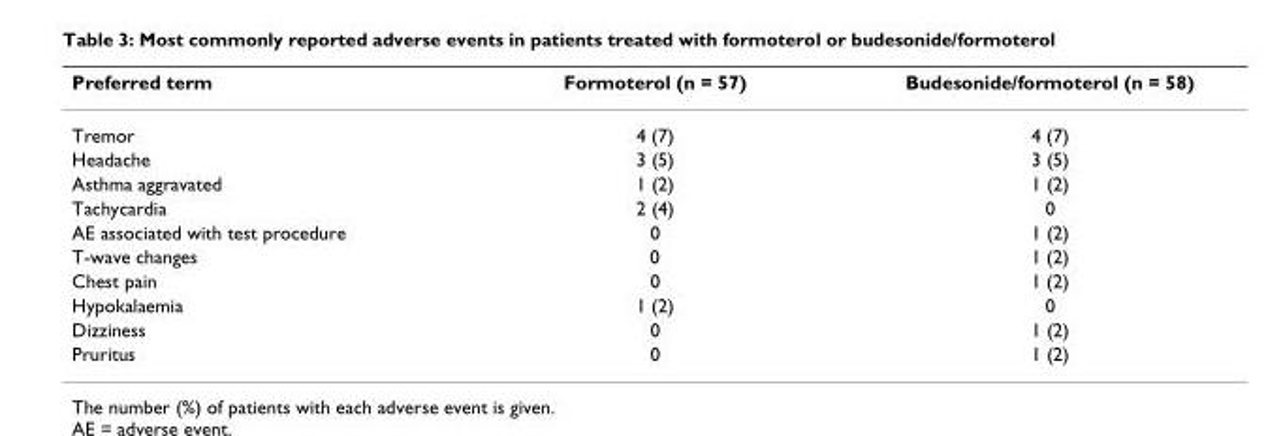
<table><thead><tr><td>Preferred term</td><td>Formoterol (n = 57)</td><td>Budesonide/formoterol (n = 58)</td></tr></thead><tbody><tr><td>Tremor</td><td>4 (7)</td><td>4 (7)</td></tr><tr><td>Headache</td><td>3 (5)</td><td>3 (5)</td></tr><tr><td>Asthma aggravated</td><td>1 (2)</td><td>1 (2)</td></tr><tr><td>Tachycardia</td><td>2 (4)</td><td>0</td></tr><tr><td>AE associated with test procedure</td><td>0</td><td>1 (2)</td></tr><tr><td>T-wave changes</td><td>0</td><td>1 (2)</td></tr><tr><td>Chest pain</td><td>0</td><td>1 (2)</td></tr><tr><td>Hypokalaemia</td><td>1 (2)</td><td>0</td></tr><tr><td>Dizziness</td><td>0</td><td>1 (2)</td></tr><tr><td>Pruritus</td><td>0</td><td>1 (2)</td></tr></tbody></table>